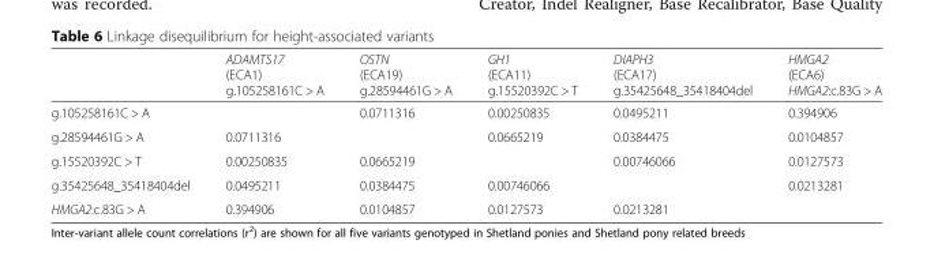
<table><thead><tr><td></td><td>ADAMTS17 (ECA1) g.105258161C &gt; A</td><td>OSTN (ECA19) g.28594461G &gt; A</td><td>GH1 (ECA11) g.15520392C &gt; T</td><td>DIAPH3 (ECA17) g.35425648_35418404del</td><td>HMGA2 (ECA6) HMGA2:c.83G &gt; A</td></tr></thead><tbody><tr><td>g.105258161C &gt; A</td><td></td><td>0.0711316</td><td>0.00250835</td><td>0.0495211</td><td>0.394906</td></tr><tr><td>g.28594461G &gt; A</td><td>0.0711316</td><td></td><td>0.0665219</td><td>0.0384475</td><td>0.0104857</td></tr><tr><td>g.15520392C &gt; T</td><td>0.00250835</td><td>0.0665219</td><td></td><td>0.00746066</td><td>0.0127573</td></tr><tr><td>g.35425648_35418404del</td><td>0.0495211</td><td>0.0384475</td><td>0.00746066</td><td></td><td>0.0213281</td></tr><tr><td>HMGA2:c.83G &gt; A</td><td>0.394906</td><td>0.0104857</td><td>0.0127573</td><td>0.0213281</td><td></td></tr></tbody></table>